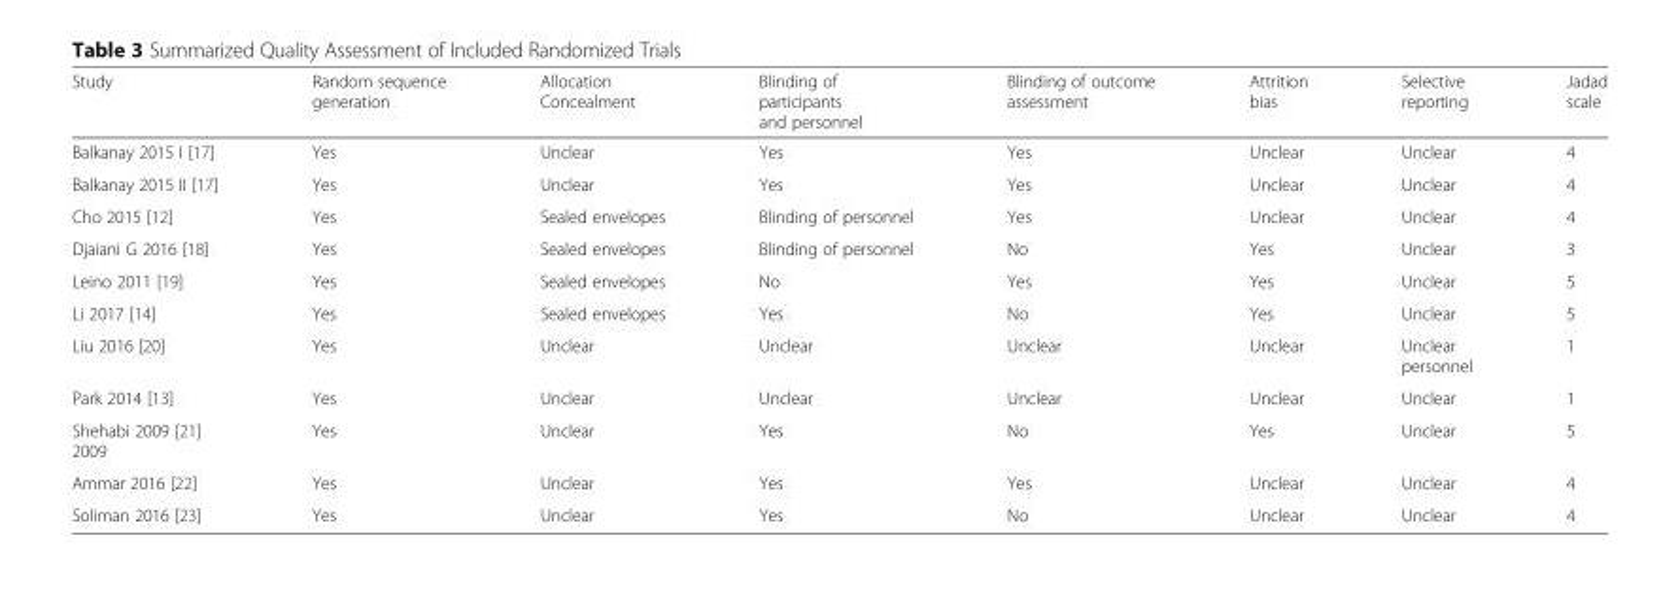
<table><thead><tr><td>Study</td><td>Random sequence generation</td><td>Allocation Concealment</td><td>Blinding of participants and personnel</td><td>Blinding of outcome assessment</td><td>Attrition bias</td><td>Selective reporting</td><td>Jadad scale</td></tr></thead><tbody><tr><td>Balkanay 2015 I [17]</td><td>Yes</td><td>Unclear</td><td>Yes</td><td>Yes</td><td>Unclear</td><td>Unclear</td><td>4</td></tr><tr><td>Balkanay 2015 II [17]</td><td>Yes</td><td>Unclear</td><td>Yes</td><td>Yes</td><td>Unclear</td><td>Unclear</td><td>4</td></tr><tr><td>Cho 2015 [12]</td><td>Yes</td><td>Sealed envelopes</td><td>Blinding of personnel</td><td>Yes</td><td>Unclear</td><td>Unclear</td><td>4</td></tr><tr><td>Djaiani G 2016 [18]</td><td>Yes</td><td>Sealed envelopes</td><td>Blinding of personnel</td><td>No</td><td>Yes</td><td>Unclear</td><td>3</td></tr><tr><td>Leino 2011 [19]</td><td>Yes</td><td>Sealed envelopes</td><td>No</td><td>Yes</td><td>Yes</td><td>Unclear</td><td>5</td></tr><tr><td>Li 2017 [14]</td><td>Yes</td><td>Sealed envelopes</td><td>Yes</td><td>No</td><td>Yes</td><td>Unclear</td><td>5</td></tr><tr><td>Liu 2016 [20]</td><td>Yes</td><td>Unclear</td><td>Unclear</td><td>Unclear</td><td>Unclear</td><td>Unclear personnel</td><td>1</td></tr><tr><td>Park 2014 [13]</td><td>Yes</td><td>Unclear</td><td>Unclear</td><td>Unclear</td><td>Unclear</td><td>Unclear</td><td>1</td></tr><tr><td>Shehabi 2009 [21] 2009</td><td>Yes</td><td>Unclear</td><td>Yes</td><td>No</td><td>Yes</td><td>Unclear</td><td>5</td></tr><tr><td>Ammar 2016 [22]</td><td>Yes</td><td>Unclear</td><td>Yes</td><td>Yes</td><td>Unclear</td><td>Unclear</td><td>4</td></tr><tr><td>Soliman 2016 [23]</td><td>Yes</td><td>Unclear</td><td>Yes</td><td>No</td><td>Unclear</td><td>Unclear</td><td>4</td></tr></tbody></table>